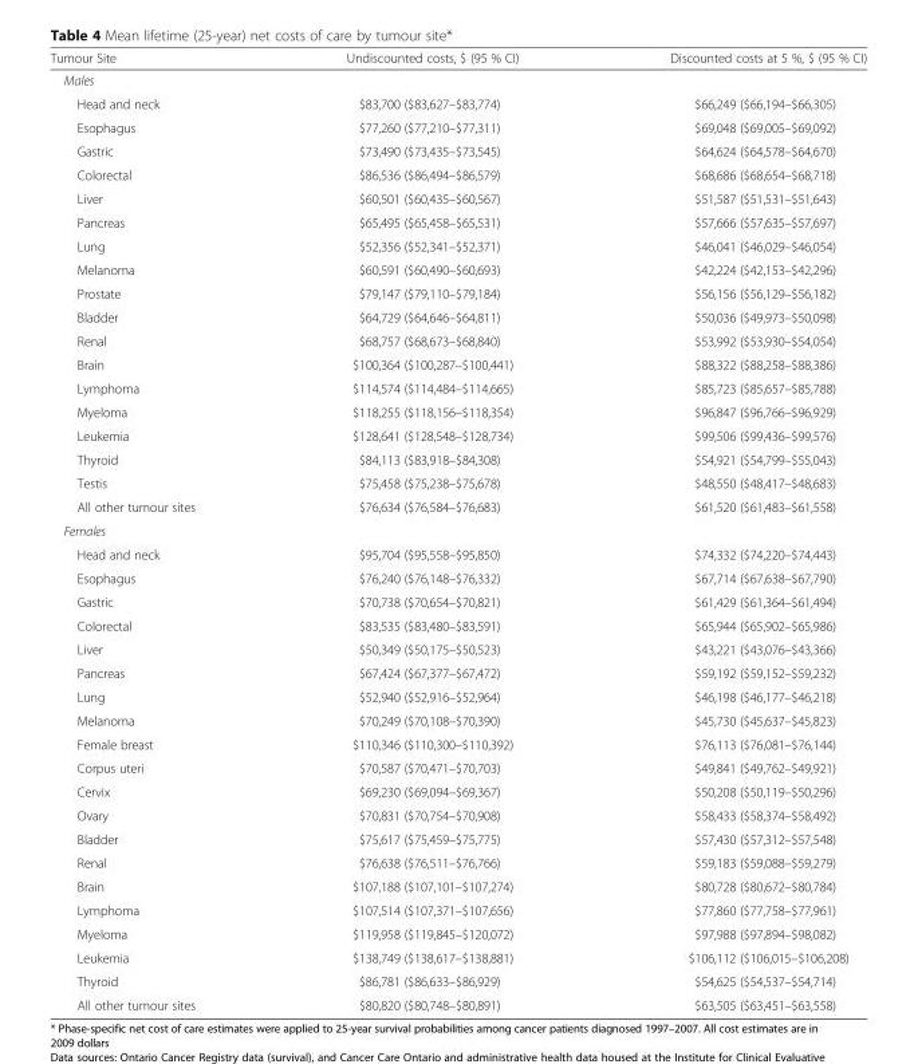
<table><thead><tr><td>Tumour Site</td><td>Undiscounted costs, $ (95 % CI)</td><td>Discounted costs at 5 %, $ (95 % CI)</td></tr></thead><tbody><tr><td colspan="3">Males</td></tr><tr><td>Head and neck</td><td>$83,700 ($83,627–$83,774)</td><td>$66,249 ($66,194–$66,305)</td></tr><tr><td>Esophagus</td><td>$77,260 ($77,210–$77,311)</td><td>$69,048 ($69,005–$69,092)</td></tr><tr><td>Gastric</td><td>$73,490 ($73,435–$73,545)</td><td>$64,624 ($64,578–$64,670)</td></tr><tr><td>Colorectal</td><td>$86,536 ($86,494–$86,579)</td><td>$68,686 ($68,654–$68,718)</td></tr><tr><td>Liver</td><td>$60,501 ($60,435–$60,567)</td><td>$51,587 ($51,531–$51,643)</td></tr><tr><td>Pancreas</td><td>$65,495 ($65,458–$65,531)</td><td>$57,666 ($57,635–$57,697)</td></tr><tr><td>Lung</td><td>$52,356 ($52,341–$52,371)</td><td>$46,041 ($46,029–$46,054)</td></tr><tr><td>Melanoma</td><td>$60,591 ($60,490–$60,693)</td><td>$42,224 ($42,153–$42,296)</td></tr><tr><td>Prostate</td><td>$79,147 ($79,110–$79,184)</td><td>$56,156 ($56,129–$56,182)</td></tr><tr><td>Bladder</td><td>$64,729 ($64,646–$64,811)</td><td>$50,036 ($49,973–$50,098)</td></tr><tr><td>Renal</td><td>$68,757 ($68,673–$68,840)</td><td>$53,992 ($53,930–$54,054)</td></tr><tr><td>Brain</td><td>$100,364 ($100,287–$100,441)</td><td>$88,322 ($88,258–$88,386)</td></tr><tr><td>Lymphoma</td><td>$114,574 ($114,484–$114,665)</td><td>$85,723 ($85,657–$85,788)</td></tr><tr><td>Myeloma</td><td>$118,255 ($118,156–$118,354)</td><td>$96,847 ($96,766–$96,929)</td></tr><tr><td>Leukemia</td><td>$128,641 ($128,548–$128,734)</td><td>$99,506 ($99,436–$99,576)</td></tr><tr><td>Thyroid</td><td>$84,113 ($83,918–$84,308)</td><td>$54,921 ($54,799–$55,043)</td></tr><tr><td>Testis</td><td>$75,458 ($75,238–$75,678)</td><td>$48,550 ($48,417–$48,683)</td></tr><tr><td>All other tumour sites</td><td>$76,634 ($76,584–$76,683)</td><td>$61,520 ($61,483–$61,558)</td></tr><tr><td colspan="3">Females</td></tr><tr><td>Head and neck</td><td>$95,704 ($95,558–$95,850)</td><td>$74,332 ($74,220–$74,443)</td></tr><tr><td>Esophagus</td><td>$76,240 ($76,148–$76,332)</td><td>$67,714 ($67,638–$67,790)</td></tr><tr><td>Gastric</td><td>$70,738 ($70,654–$70,821)</td><td>$61,429 ($61,364–$61,494)</td></tr><tr><td>Colorectal</td><td>$83,535 ($83,480–$83,591)</td><td>$65,944 ($65,902–$65,986)</td></tr><tr><td>Liver</td><td>$50,349 ($50,175–$50,523)</td><td>$43,221 ($43,076–$43,366)</td></tr><tr><td>Pancreas</td><td>$67,424 ($67,377–$67,472)</td><td>$59,192 ($59,152–$59,232)</td></tr><tr><td>Lung</td><td>$52,940 ($52,916–$52,964)</td><td>$46,198 ($46,177–$46,218)</td></tr><tr><td>Melanoma</td><td>$70,249 ($70,108–$70,390)</td><td>$45,730 ($45,637–$45,823)</td></tr><tr><td>Female breast</td><td>$110,346 ($110,300–$110,392)</td><td>$76,113 ($76,081–$76,144)</td></tr><tr><td>Corpus uteri</td><td>$70,587 ($70,471–$70,703)</td><td>$49,841 ($49,762–$49,921)</td></tr><tr><td>Cervix</td><td>$69,230 ($69,094–$69,367)</td><td>$50,208 ($50,119–$50,296)</td></tr><tr><td>Ovary</td><td>$70,831 ($70,754–$70,908)</td><td>$58,433 ($58,374–$58,492)</td></tr><tr><td>Bladder</td><td>$75,617 ($75,459–$75,775)</td><td>$57,430 ($57,312–$57,548)</td></tr><tr><td>Renal</td><td>$76,638 ($76,511–$76,766)</td><td>$59,183 ($59,088–$59,279)</td></tr><tr><td>Brain</td><td>$107,188 ($107,101–$107,274)</td><td>$80,728 ($80,672–$80,784)</td></tr><tr><td>Lymphoma</td><td>$107,514 ($107,371–$107,656)</td><td>$77,860 ($77,758–$77,961)</td></tr><tr><td>Myeloma</td><td>$119,958 ($119,845–$120,072)</td><td>$97,988 ($97,894–$98,082)</td></tr><tr><td>Leukemia</td><td>$138,749 ($138,617–$138,881)</td><td>$106,112 ($106,015–$106,208)</td></tr><tr><td>Thyroid</td><td>$86,781 ($86,633–$86,929)</td><td>$54,625 ($54,537–$54,714)</td></tr><tr><td>All other tumour sites</td><td>$80,820 ($80,748–$80,891)</td><td>$63,505 ($63,451–$63,558)</td></tr></tbody></table>